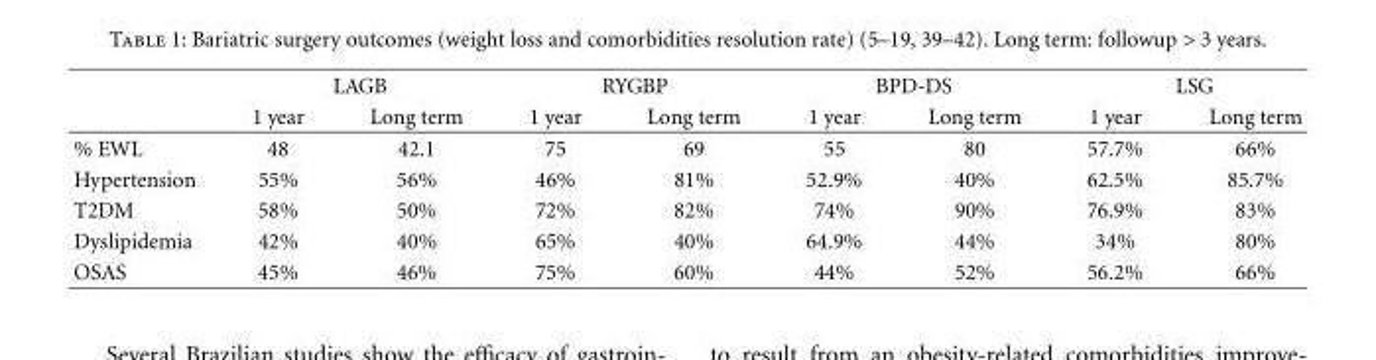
<table><thead><tr><td rowspan="2"></td><td colspan="2">LAGB</td><td colspan="2">RYGBP</td><td colspan="2">BPD-DS</td><td colspan="2">LSG</td></tr><tr><td>1 year</td><td>Long term</td><td>1 year</td><td>Long term</td><td>1 year</td><td>Long term</td><td>1 year</td><td>Long term</td></tr></thead><tbody><tr><td>% EWL</td><td>48</td><td>42.1</td><td>75</td><td>69</td><td>55</td><td>80</td><td>57.7%</td><td>66%</td></tr><tr><td>Hypertension</td><td>55%</td><td>56%</td><td>46%</td><td>81%</td><td>52.9%</td><td>40%</td><td>62.5%</td><td>85.7%</td></tr><tr><td>T2DM</td><td>58%</td><td>50%</td><td>72%</td><td>82%</td><td>74%</td><td>90%</td><td>76.9%</td><td>83%</td></tr><tr><td>Dyslipidemia</td><td>42%</td><td>40%</td><td>65%</td><td>40%</td><td>64.9%</td><td>44%</td><td>34%</td><td>80%</td></tr><tr><td>OSAS</td><td>45%</td><td>46%</td><td>75%</td><td>60%</td><td>44%</td><td>52%</td><td>56.2%</td><td>66%</td></tr></tbody></table>